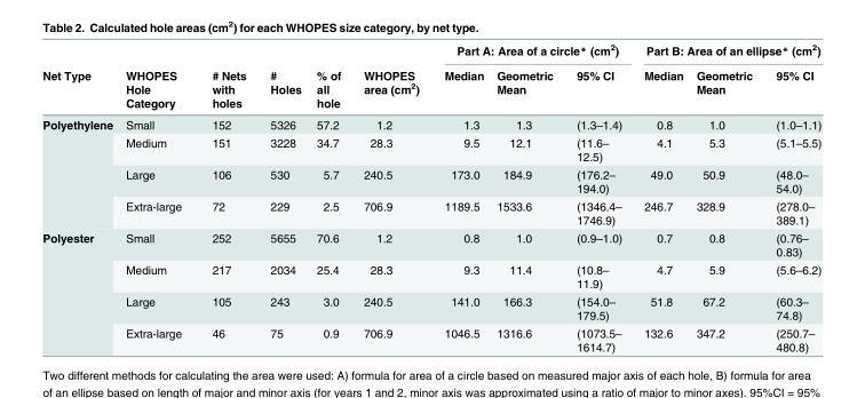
<table><thead><tr><td rowspan="2">Net Type</td><td rowspan="2">WHOPES Hole Category</td><td rowspan="2"># Nets with holes</td><td rowspan="2"># Holes</td><td rowspan="2">% of all hole</td><td rowspan="2">WHOPES area (cm<sup>2</sup>)</td><td colspan="3">Part A: Area of a circle* (cm<sup>2</sup>)</td><td colspan="3">Part B: Area of an ellipse* (cm<sup>2</sup>)</td></tr><tr><td>Median</td><td>Geometric Mean</td><td>95% CI</td><td>Median</td><td>Geometric Mean</td><td>95% CI</td></tr></thead><tbody><tr><td rowspan="4">Polyethylene</td><td>Small</td><td>152</td><td>5326</td><td>57.2</td><td>1.2</td><td>1.3</td><td>1.3</td><td>(1.3–1.4)</td><td>0.8</td><td>1.0</td><td>(1.0–1.1)</td></tr><tr><td>Medium</td><td>151</td><td>3228</td><td>34.7</td><td>28.3</td><td>9.5</td><td>12.1</td><td>(11.6– 12.5)</td><td>4.1</td><td>5.3</td><td>(5.1–5.5)</td></tr><tr><td>Large</td><td>106</td><td>530</td><td>5.7</td><td>240.5</td><td>173.0</td><td>184.9</td><td>(176.2– 194.0)</td><td>49.0</td><td>50.9</td><td>(48.0– 54.0)</td></tr><tr><td>Extra-large</td><td>72</td><td>229</td><td>2.5</td><td>706.9</td><td>1189.5</td><td>1533.6</td><td>(1346.4– 1746.9)</td><td>246.7</td><td>328.9</td><td>(278.0– 389.1)</td></tr><tr><td rowspan="4">Polyester</td><td>Small</td><td>252</td><td>5655</td><td>70.6</td><td>1.2</td><td>0.8</td><td>1.0</td><td>(0.9–1.0)</td><td>0.7</td><td>0.8</td><td>(0.76– 0.83)</td></tr><tr><td>Medium</td><td>217</td><td>2034</td><td>25.4</td><td>28.3</td><td>9.3</td><td>11.4</td><td>(10.8– 11.9)</td><td>4.7</td><td>5.9</td><td>(5.6–6.2)</td></tr><tr><td>Large</td><td>105</td><td>243</td><td>3.0</td><td>240.5</td><td>141.0</td><td>166.3</td><td>(154.0– 179.5)</td><td>51.8</td><td>67.2</td><td>(60.3– 74.8)</td></tr><tr><td>Extra-large</td><td>46</td><td>75</td><td>0.9</td><td>706.9</td><td>1046.5</td><td>1316.6</td><td>(1073.5– 1614.7)</td><td>132.6</td><td>347.2</td><td>(250.7– 480.8)</td></tr></tbody></table>